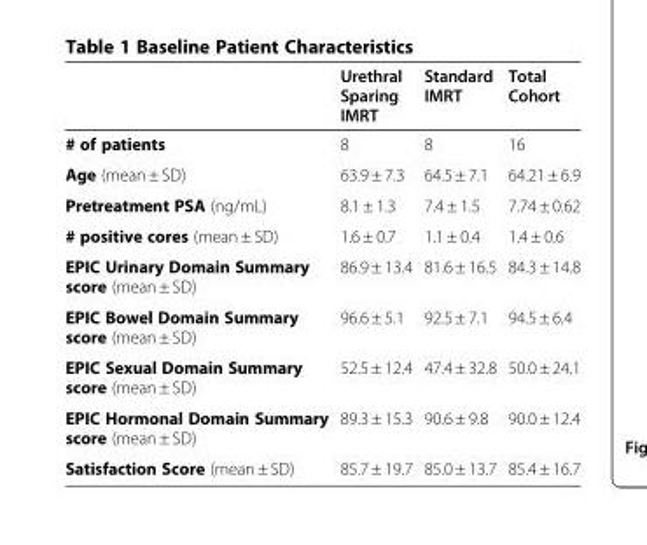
<table><thead><tr><td></td><td>Urethral Sparing IMRT</td><td>Standard IMRT</td><td>Total Cohort</td></tr></thead><tbody><tr><td># of patients</td><td>8</td><td>8</td><td>16</td></tr><tr><td>Age (mean ± SD)</td><td>63.9 ± 7.3</td><td>64.5 ± 7.1</td><td>64.21 ± 6.9</td></tr><tr><td>Pretreatment PSA (ng/mL)</td><td>8.1 ± 1.3</td><td>7.4 ± 1.5</td><td>7.74 ± 0.62</td></tr><tr><td># positive cores (mean ± SD)</td><td>1.6 ± 0.7</td><td>1.1 ± 0.4</td><td>1.4 ± 0.6</td></tr><tr><td>EPIC Urinary Domain Summary score (mean ± SD)</td><td>86.9 ± 13.4</td><td>81.6 ± 16.5</td><td>84.3 ± 14.8</td></tr><tr><td>EPIC Bowel Domain Summary score (mean ± SD)</td><td>96.6 ± 5.1</td><td>92.5 ± 7.1</td><td>94.5 ± 6.4</td></tr><tr><td>EPIC Sexual Domain Summary score (mean ± SD)</td><td>52.5 ± 12.4</td><td>47.4 ± 32.8</td><td>50.0 ± 24.1</td></tr><tr><td>EPIC Hormonal Domain Summary score (mean ± SD)</td><td>89.3 ± 15.3</td><td>90.6 ± 9.8</td><td>90.0 ± 12.4</td></tr><tr><td>Satisfaction Score (mean ± SD)</td><td>85.7 ± 19.7</td><td>85.0 ± 13.7</td><td>85.4 ± 16.7</td></tr></tbody></table>